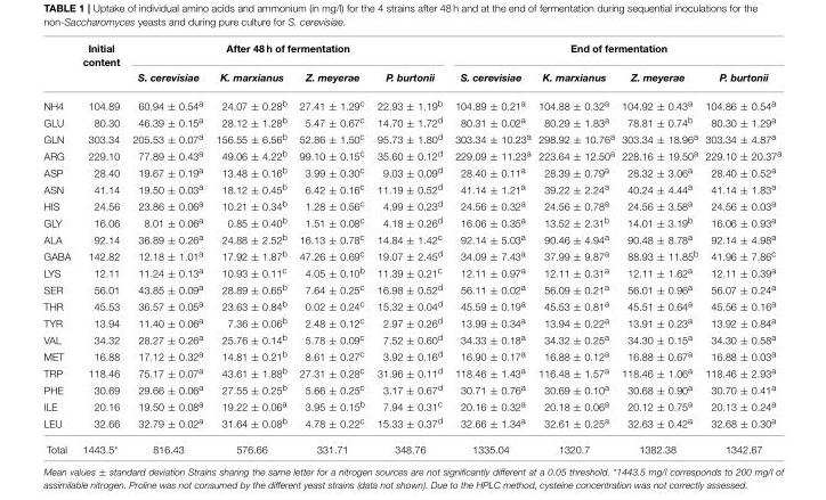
<table><thead><tr><td rowspan="2"></td><td rowspan="2">Initial content</td><td colspan="4">After 48 h of fermentation</td><td colspan="4">End of fermentation</td></tr><tr><td>S. cerevisiae</td><td>K. marxianus</td><td>Z. meyerae</td><td>P. burtonii</td><td>S. cerevisiae</td><td>K. marxianus</td><td>Z. meyerae</td><td>P. burtonii</td></tr></thead><tbody><tr><td>NH4</td><td>104.89</td><td>60.94 ± 0.54<sup>a</sup></td><td>24.07 ± 0.28<sup>b</sup></td><td>27.41 ± 1.29<sup>c</sup></td><td>22.93 ± 1.19<sup>b</sup></td><td>104.89 ± 0.21<sup>a</sup></td><td>104.88 ± 0.32<sup>a</sup></td><td>104.92 ± 0.43<sup>a</sup></td><td>104.86 ± 0.54<sup>a</sup></td></tr><tr><td>GLU</td><td>80.30</td><td>46.39 ± 0.15<sup>a</sup></td><td>28.12 ± 1.28<sup>b</sup></td><td>5.47 ± 0.67<sup>c</sup></td><td>14.70 ± 1.72<sup>d</sup></td><td>80.31 ± 0.02<sup>a</sup></td><td>80.29 ± 1.83<sup>a</sup></td><td>78.81 ± 0.74<sup>b</sup></td><td>80.30 ± 1.29<sup>a</sup></td></tr><tr><td>GLN</td><td>303.34</td><td>205.53 ± 0.07<sup>a</sup></td><td>156.55 ± 6.56<sup>b</sup></td><td>52.86 ± 1.50<sup>c</sup></td><td>95.73 ± 1.80<sup>d</sup></td><td>303.34 ± 10.23<sup>a</sup></td><td>298.92 ± 10.76<sup>a</sup></td><td>303.34 ± 18.96<sup>a</sup></td><td>303.34 ± 4.87<sup>a</sup></td></tr><tr><td>ARG</td><td>229.10</td><td>77.89 ± 0.43<sup>a</sup></td><td>49.06 ± 4.22<sup>b</sup></td><td>99.10 ± 0.15<sup>c</sup></td><td>35.60 ± 0.12<sup>d</sup></td><td>229.09 ± 11.23<sup>a</sup></td><td>223.64 ± 12.50<sup>a</sup></td><td>228.16 ± 19.50<sup>a</sup></td><td>229.10 ± 20.37<sup>a</sup></td></tr><tr><td>ASP</td><td>28.40</td><td>19.67 ± 0.19<sup>a</sup></td><td>13.48 ± 0.16<sup>b</sup></td><td>3.99 ± 0.30<sup>c</sup></td><td>9.03 ± 0.09<sup>d</sup></td><td>28.40 ± 0.11<sup>a</sup></td><td>28.39 ± 0.79<sup>a</sup></td><td>28.32 ± 3.06<sup>a</sup></td><td>28.40 ± 0.52<sup>a</sup></td></tr><tr><td>ASN</td><td>41.14</td><td>19.50 ± 0.03<sup>a</sup></td><td>18.12 ± 0.45<sup>b</sup></td><td>6.42 ± 0.16<sup>c</sup></td><td>11.19 ± 0.52<sup>d</sup></td><td>41.14 ± 1.21<sup>a</sup></td><td>39.22 ± 2.24<sup>a</sup></td><td>40.24 ± 4.44<sup>a</sup></td><td>41.14 ± 1.83<sup>a</sup></td></tr><tr><td>HIS</td><td>24.56</td><td>23.86 ± 0.06<sup>a</sup></td><td>10.21 ± 0.34<sup>b</sup></td><td>1.28 ± 0.56<sup>c</sup></td><td>4.99 ± 0.23<sup>d</sup></td><td>24.56 ± 0.32<sup>a</sup></td><td>24.56 ± 0.78<sup>a</sup></td><td>24.56 ± 3.58<sup>a</sup></td><td>24.56 ± 0.03<sup>a</sup></td></tr><tr><td>GLY</td><td>16.06</td><td>8.01 ± 0.06<sup>a</sup></td><td>0.85 ± 0.40<sup>b</sup></td><td>1.51 ± 0.08<sup>c</sup></td><td>4.18 ± 0.26<sup>d</sup></td><td>16.06 ± 0.35<sup>a</sup></td><td>13.52 ± 2.31<sup>b</sup></td><td>14.01 ± 3.19<sup>b</sup></td><td>16.06 ± 0.93<sup>a</sup></td></tr><tr><td>ALA</td><td>92.14</td><td>36.89 ± 0.26<sup>a</sup></td><td>24.88 ± 2.52<sup>b</sup></td><td>16.13 ± 0.78<sup>c</sup></td><td>14.84 ± 1.42<sup>c</sup></td><td>92.14 ± 5.03<sup>a</sup></td><td>90.46 ± 4.94<sup>a</sup></td><td>90.48 ± 8.78<sup>a</sup></td><td>92.14 ± 4.98<sup>a</sup></td></tr><tr><td>GABA</td><td>142.82</td><td>12.18 ± 1.01<sup>a</sup></td><td>17.92 ± 1.87<sup>b</sup></td><td>47.26 ± 0.69<sup>c</sup></td><td>19.07 ± 2.45<sup>d</sup></td><td>34.09 ± 7.43<sup>a</sup></td><td>37.99 ± 9.87<sup>a</sup></td><td>88.93 ± 11.85<sup>b</sup></td><td>41.96 ± 7.86<sup>c</sup></td></tr><tr><td>LYS</td><td>12.11</td><td>11.24 ± 0.13<sup>a</sup></td><td>10.93 ± 0.11<sup>c</sup></td><td>4.05 ± 0.10<sup>b</sup></td><td>11.39 ± 0.21<sup>c</sup></td><td>12.11 ± 0.97<sup>a</sup></td><td>12.11 ± 0.31<sup>a</sup></td><td>12.11 ± 1.62<sup>a</sup></td><td>12.11 ± 0.39<sup>a</sup></td></tr><tr><td>SER</td><td>56.01</td><td>43.85 ± 0.09<sup>a</sup></td><td>28.89 ± 0.65<sup>b</sup></td><td>7.64 ± 0.25<sup>c</sup></td><td>16.98 ± 0.52<sup>d</sup></td><td>56.11 ± 0.02<sup>a</sup></td><td>56.09 ± 0.21<sup>a</sup></td><td>56.01 ± 0.96<sup>a</sup></td><td>56.07 ± 0.24<sup>a</sup></td></tr><tr><td>THR</td><td>45.53</td><td>36.57 ± 0.05<sup>a</sup></td><td>23.63 ± 0.84<sup>b</sup></td><td>0.02 ± 0.24<sup>c</sup></td><td>15.32 ± 0.04<sup>d</sup></td><td>45.59 ± 0.19<sup>a</sup></td><td>45.53 ± 0.81<sup>a</sup></td><td>45.51 ± 0.64<sup>a</sup></td><td>45.56 ± 0.16<sup>a</sup></td></tr><tr><td>TYR</td><td>13.94</td><td>11.40 ± 0.06<sup>a</sup></td><td>7.36 ± 0.06<sup>b</sup></td><td>2.48 ± 0.12<sup>c</sup></td><td>2.97 ± 0.26<sup>d</sup></td><td>13.99 ± 0.34<sup>a</sup></td><td>13.94 ± 0.22<sup>a</sup></td><td>13.91 ± 0.23<sup>a</sup></td><td>13.92 ± 0.84<sup>a</sup></td></tr><tr><td>VAL</td><td>34.32</td><td>28.27 ± 0.26<sup>a</sup></td><td>25.76 ± 0.14<sup>b</sup></td><td>5.78 ± 0.09<sup>c</sup></td><td>7.52 ± 0.60<sup>d</sup></td><td>34.33 ± 0.18<sup>a</sup></td><td>34.32 ± 0.25<sup>a</sup></td><td>34.30 ± 0.15<sup>a</sup></td><td>34.30 ± 0.58<sup>a</sup></td></tr><tr><td>MET</td><td>16.88</td><td>17.12 ± 0.32<sup>a</sup></td><td>14.81 ± 0.21<sup>b</sup></td><td>8.61 ± 0.27<sup>c</sup></td><td>3.92 ± 0.16<sup>d</sup></td><td>16.90 ± 0.17<sup>a</sup></td><td>16.88 ± 0.12<sup>a</sup></td><td>16.88 ± 0.67<sup>a</sup></td><td>16.88 ± 0.03<sup>a</sup></td></tr><tr><td>TRP</td><td>118.46</td><td>75.17 ± 0.07<sup>a</sup></td><td>43.61 ± 1.88<sup>b</sup></td><td>27.31 ± 0.28<sup>c</sup></td><td>31.96 ± 0.11<sup>d</sup></td><td>118.46 ± 1.43<sup>a</sup></td><td>116.48 ± 1.57<sup>a</sup></td><td>118.46 ± 1.06<sup>a</sup></td><td>118.46 ± 2.93<sup>a</sup></td></tr><tr><td>PHE</td><td>30.69</td><td>29.66 ± 0.06<sup>a</sup></td><td>27.55 ± 0.25<sup>b</sup></td><td>5.66 ± 0.25<sup>c</sup></td><td>3.17 ± 0.67<sup>d</sup></td><td>30.71 ± 0.76<sup>a</sup></td><td>30.69 ± 0.10<sup>a</sup></td><td>30.68 ± 0.90<sup>a</sup></td><td>30.70 ± 0.41<sup>a</sup></td></tr><tr><td>ILE</td><td>20.16</td><td>19.50 ± 0.08<sup>a</sup></td><td>19.22 ± 0.06<sup>a</sup></td><td>3.95 ± 0.15<sup>b</sup></td><td>7.94 ± 0.31<sup>c</sup></td><td>20.16 ± 0.32<sup>a</sup></td><td>20.18 ± 0.06<sup>a</sup></td><td>20.12 ± 0.75<sup>a</sup></td><td>20.13 ± 0.24<sup>a</sup></td></tr><tr><td>LEU</td><td>32.66</td><td>32.79 ± 0.02<sup>a</sup></td><td>31.64 ± 0.08<sup>b</sup></td><td>4.78 ± 0.22<sup>c</sup></td><td>15.33 ± 0.37<sup>d</sup></td><td>32.66 ± 1.34<sup>a</sup></td><td>32.61 ± 0.25<sup>a</sup></td><td>32.63 ± 0.42<sup>a</sup></td><td>32.68 ± 0.30<sup>a</sup></td></tr><tr><td>Total</td><td>1443.5*</td><td>816.43</td><td>576.66</td><td>331.71</td><td>348.76</td><td>1335.04</td><td>1320.7</td><td>1382.38</td><td>1342.67</td></tr></tbody></table>